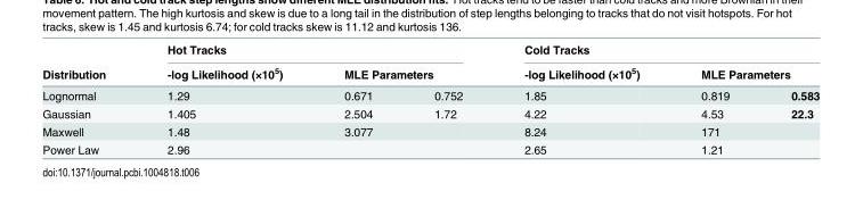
<table><thead><tr><td rowspan="3">Distribution Lognormal</td><td colspan="3">Hot Tracks</td><td colspan="3">Cold Tracks</td></tr><tr><td rowspan="2">-log Likelihood (×10<sup>5</sup>) 1.29</td><td colspan="2">MLE Parameters</td><td rowspan="2">-log Likelihood (×10<sup>5</sup>) 1.85</td><td colspan="2">MLE Parameters</td></tr><tr><td>0.671</td><td>0.752</td><td>0.819</td><td>0.583</td></tr></thead><tbody><tr><td>Gaussian</td><td>1.405</td><td>2.504</td><td>1.72</td><td>4.22</td><td>4.53</td><td>22.3</td></tr><tr><td>Maxwell</td><td>1.48</td><td>3.077</td><td></td><td>8.24</td><td>171</td><td></td></tr><tr><td>Power Law</td><td>2.96</td><td></td><td></td><td>2.65</td><td>1.21</td><td></td></tr></tbody></table>